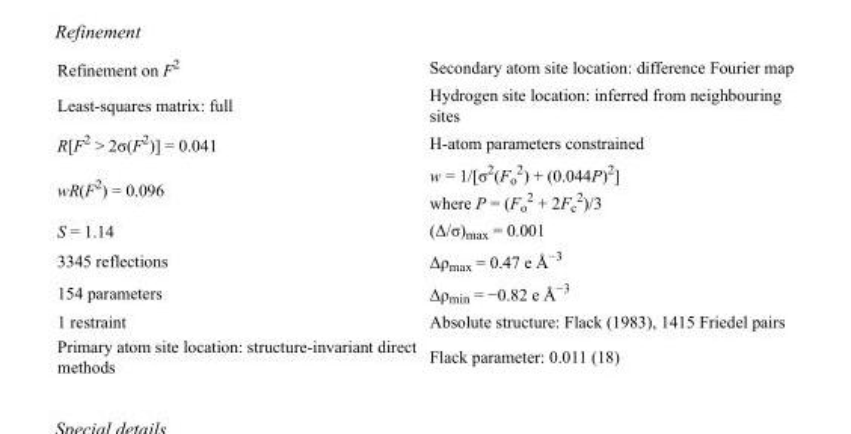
<table><tbody><tr><td>Refinement on F<sup>2</sup></td><td>Secondary atom site location: difference Fourier map</td></tr><tr><td>Least-squares matrix: full</td><td>Hydrogen site location: inferred from neighbouring sites</td></tr><tr><td>R[F<sup>2</sup> &gt; 2σ(F<sup>2</sup>)] = 0.041</td><td>H-atom parameters constrained</td></tr><tr><td>wR(F<sup>2</sup>) = 0.096</td><td>w = 1/[σ<sup>2</sup>(F<sub>o</sub> <sup>2</sup>) + (0.044P)<sup>2</sup>] where P = (F<sub>o</sub> <sup>2</sup> + 2F<sub>c</sub> <sup>2</sup>)/3</td></tr><tr><td>S = 1.14</td><td>(Δ/σ)<sub>max</sub> = 0.001</td></tr><tr><td>3345 reflections</td><td>Δρ<sub>max</sub> = 0.47 e Å<sup>−3</sup></td></tr><tr><td>154 parameters</td><td>Δρ<sub>min</sub> = −0.82 e Å<sup>−3</sup></td></tr><tr><td>1 restraint</td><td>Absolute structure: Flack (1983), 1415 Friedel pairs</td></tr><tr><td>Primary atom site location: structure-invariant direct methods</td><td>Flack parameter: 0.011 (18)</td></tr></tbody></table>